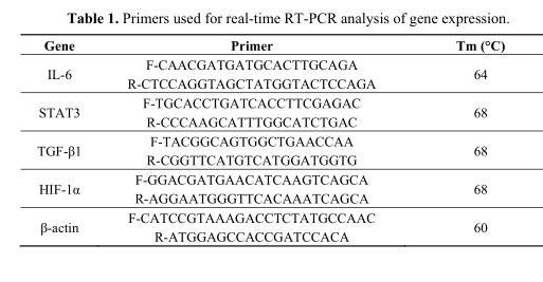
<table><thead><tr><td>Gene</td><td>Primer</td><td>Tm (°C)</td></tr></thead><tbody><tr><td>IL-6</td><td>F-CAACGATGATGCACTTGCAGA R-CTCCAGGTAGCTATGGTACTCCAGA</td><td>64</td></tr><tr><td>STAT3</td><td>F-TGCACCTGATCACCTTCGAGAC R-CCCAAGCATTTGGCATCTGAC</td><td>68</td></tr><tr><td>TGF-β1</td><td>F-TACGGCAGTGGCTGAACCAA R-CGGTTCATGTCATGGATGGTG</td><td>68</td></tr><tr><td>HIF-1α</td><td>F-GGACGATGAACATCAAGTCAGCA R-AGGAATGGGTTCACAAATCAGCA</td><td>68</td></tr><tr><td>β-actin</td><td>F-CATCCGTAAAGACCTCTATGCCAAC R-ATGGAGCCACCGATCCACA</td><td>60</td></tr></tbody></table>